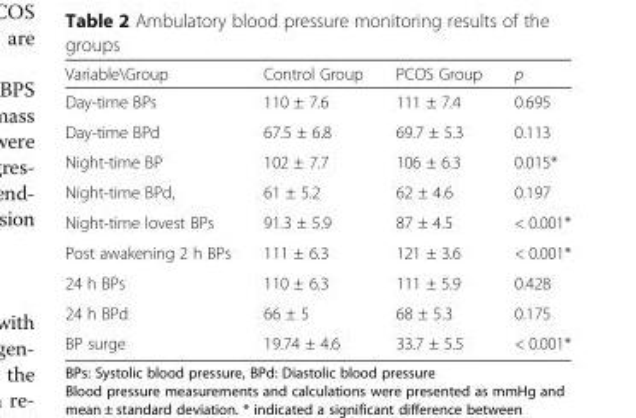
<table><thead><tr><td>Variable\Group</td><td>Control Group</td><td>PCOS Group</td><td>p</td></tr></thead><tbody><tr><td>Day-time BPs</td><td>110 ± 7.6</td><td>111 ± 7.4</td><td>0.695</td></tr><tr><td>Day-time BPd</td><td>67.5 ± 6.8</td><td>69.7 ± 5.3</td><td>0.113</td></tr><tr><td>Night-time BP</td><td>102 ± 7.7</td><td>106 ± 6.3</td><td>0.015*</td></tr><tr><td>Night-time BPd,</td><td>61 ± 5.2</td><td>62 ± 4.6</td><td>0.197</td></tr><tr><td>Night-time lovest BPs</td><td>91.3 ± 5.9</td><td>87 ± 4.5</td><td>&lt; 0.001*</td></tr><tr><td>Post awakening 2 h BPs</td><td>111 ± 6.3</td><td>121 ± 3.6</td><td>&lt; 0.001*</td></tr><tr><td>24 h BPs</td><td>110 ± 6.3</td><td>111 ± 5.9</td><td>0.428</td></tr><tr><td>24 h BPd</td><td>66 ± 5</td><td>68 ± 5.3</td><td>0.175</td></tr><tr><td>BP surge</td><td>19.74 ± 4.6</td><td>33.7 ± 5.5</td><td>&lt; 0.001*</td></tr></tbody></table>